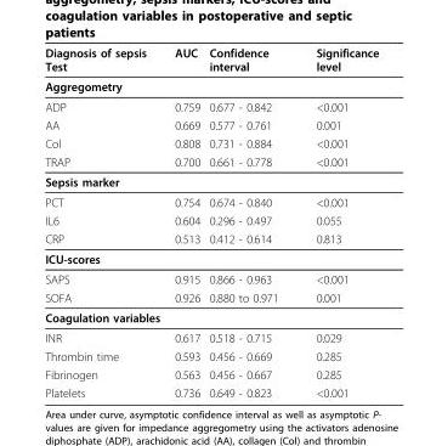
<table><thead><tr><td>Diagnosis of sepsis Test</td><td>AUC</td><td>Confidence interval</td><td>Significance level</td></tr></thead><tbody><tr><td colspan="4">Aggregometry</td></tr><tr><td>ADP</td><td>0.759</td><td>0.677 - 0.842</td><td>&lt;0.001</td></tr><tr><td>AA</td><td>0.669</td><td>0.577 - 0.761</td><td>0.001</td></tr><tr><td>Col</td><td>0.808</td><td>0.731 - 0.884</td><td>&lt;0.001</td></tr><tr><td>TRAP</td><td>0.700</td><td>0.661 - 0.778</td><td>&lt;0.001</td></tr><tr><td colspan="4">Sepsis marker</td></tr><tr><td>PCT</td><td>0.754</td><td>0.674 - 0.840</td><td>&lt;0.001</td></tr><tr><td>IL6</td><td>0.604</td><td>0.296 - 0.497</td><td>0.055</td></tr><tr><td>CRP</td><td>0.513</td><td>0.412 - 0.614</td><td>0.813</td></tr><tr><td colspan="4">ICU-scores</td></tr><tr><td>SAPS</td><td>0.915</td><td>0.866 - 0.963</td><td>&lt;0.001</td></tr><tr><td>SOFA</td><td>0.926</td><td>0.880 to 0.971</td><td>0.001</td></tr><tr><td colspan="4">Coagulation variables</td></tr><tr><td>INR</td><td>0.617</td><td>0.518 - 0.715</td><td>0.029</td></tr><tr><td>Thrombin time</td><td>0.593</td><td>0.456 - 0.669</td><td>0.285</td></tr><tr><td>Fibrinogen</td><td>0.563</td><td>0.456 - 0.667</td><td>0.285</td></tr><tr><td>Platelets</td><td>0.736</td><td>0.649 - 0.823</td><td>&lt;0.001</td></tr></tbody></table>